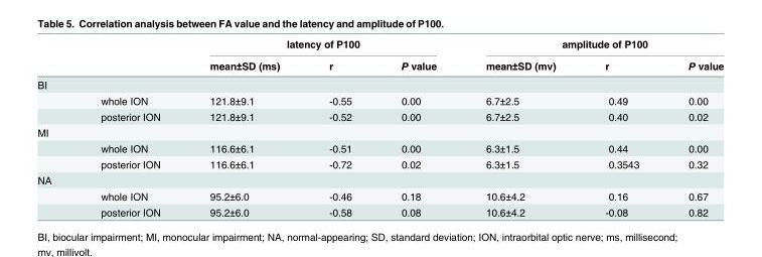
<table><thead><tr><td rowspan="2"></td><td rowspan="2"></td><td colspan="3">latency of P100</td><td colspan="3">amplitude of P100</td></tr><tr><td>mean±SD (ms)</td><td>r</td><td>P value</td><td>mean±SD (mv)</td><td>r</td><td>P value</td></tr></thead><tbody><tr><td colspan="8">BI</td></tr><tr><td></td><td>whole ION</td><td>121.8±9.1</td><td>-0.55</td><td>0.00</td><td>6.7±2.5</td><td>0.49</td><td>0.00</td></tr><tr><td></td><td>posterior ION</td><td>121.8±9.1</td><td>-0.52</td><td>0.00</td><td>6.7±2.5</td><td>0.40</td><td>0.02</td></tr><tr><td colspan="8">MI</td></tr><tr><td></td><td>whole ION</td><td>116.6±6.1</td><td>-0.51</td><td>0.00</td><td>6.3±1.5</td><td>0.44</td><td>0.00</td></tr><tr><td></td><td>posterior ION</td><td>116.6±6.1</td><td>-0.72</td><td>0.02</td><td>6.3±1.5</td><td>0.3543</td><td>0.32</td></tr><tr><td colspan="8">NA</td></tr><tr><td></td><td>whole ION</td><td>95.2±6.0</td><td>-0.46</td><td>0.18</td><td>10.6±4.2</td><td>0.16</td><td>0.67</td></tr><tr><td></td><td>posterior ION</td><td>95.2±6.0</td><td>-0.58</td><td>0.08</td><td>10.6±4.2</td><td>-0.08</td><td>0.82</td></tr></tbody></table>